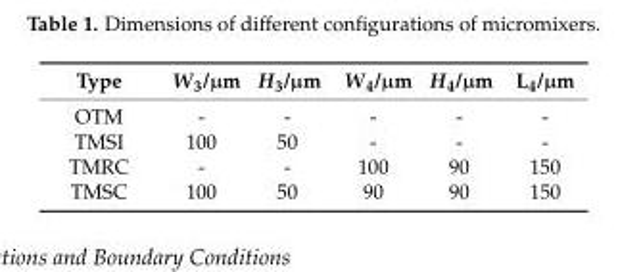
<table><thead><tr><td>Type</td><td>W<sub>3</sub>/µm</td><td>H<sub>3</sub>/µm</td><td>W<sub>4</sub>/µm</td><td>H<sub>4</sub>/µm</td><td>L<sub>4</sub>/µm</td></tr></thead><tbody><tr><td>OTM</td><td>-</td><td>-</td><td>-</td><td>-</td><td>-</td></tr><tr><td>TMSI</td><td>100</td><td>50</td><td>-</td><td>-</td><td>-</td></tr><tr><td>TMRC</td><td>-</td><td>-</td><td>100</td><td>90</td><td>150</td></tr><tr><td>TMSC</td><td>100</td><td>50</td><td>90</td><td>90</td><td>150</td></tr></tbody></table>